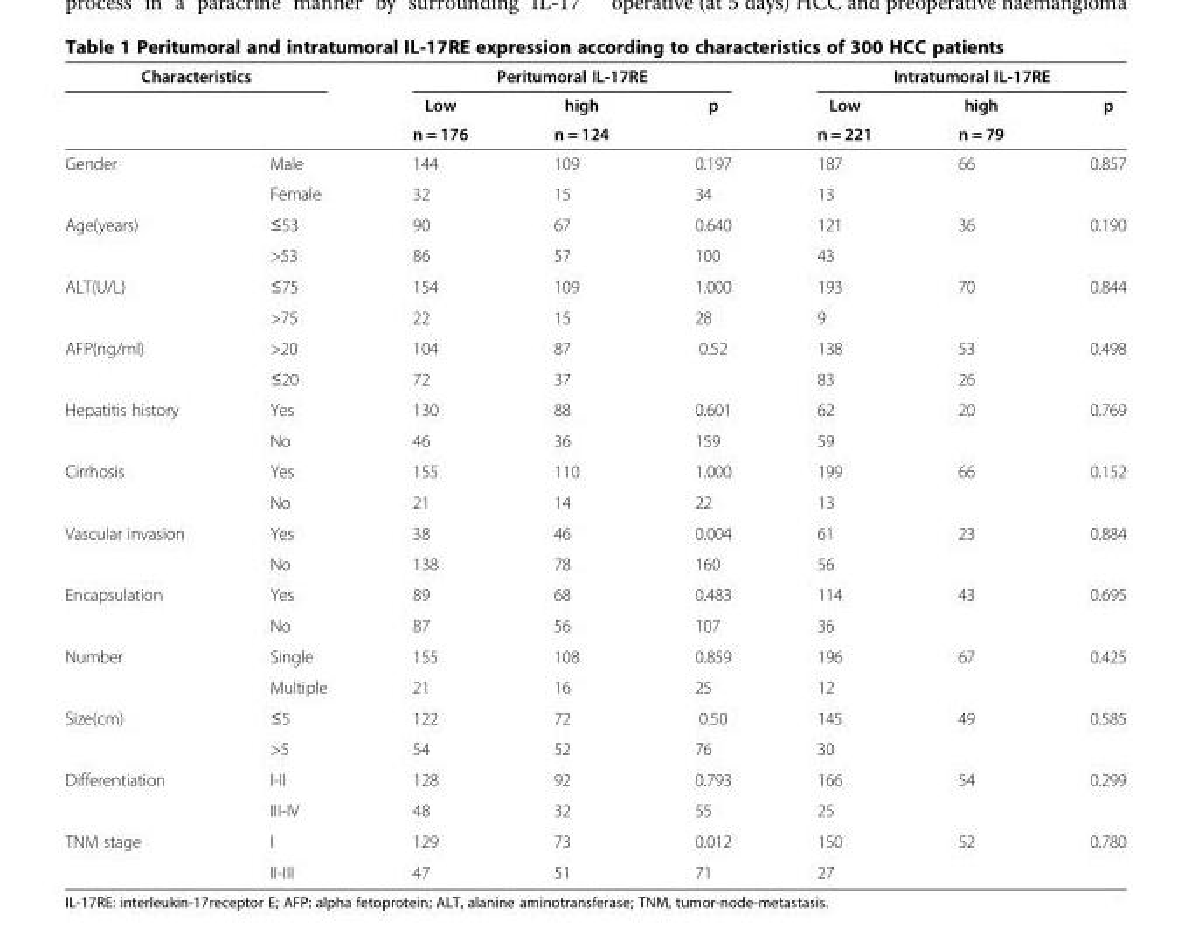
<table><thead><tr><td colspan="2">Characteristics</td><td colspan="3">Peritumoral IL-17RE</td><td colspan="3">Intratumoral IL-17RE</td></tr><tr><td rowspan="2"></td><td rowspan="2"></td><td rowspan="2">Low n = 176</td><td rowspan="2">high n = 124</td><td rowspan="2">p</td><td rowspan="2">Low n = 221</td><td rowspan="2">high n = 79</td><td rowspan="2">p</td></tr><tr></tr></thead><tbody><tr><td rowspan="2">Gender</td><td>Male</td><td>144</td><td>109</td><td>0.197</td><td>187</td><td>66</td><td>0.857</td></tr><tr><td>Female</td><td>32</td><td>15</td><td>34</td><td>13</td><td></td><td></td></tr><tr><td rowspan="2">Age(years)</td><td>≤53</td><td>90</td><td>67</td><td>0.640</td><td>121</td><td>36</td><td>0.190</td></tr><tr><td>&gt;53</td><td>86</td><td>57</td><td>100</td><td>43</td><td></td><td></td></tr><tr><td rowspan="2">ALT(U/L)</td><td>≤75</td><td>154</td><td>109</td><td>1.000</td><td>193</td><td>70</td><td>0.844</td></tr><tr><td>&gt;75</td><td>22</td><td>15</td><td>28</td><td>9</td><td></td><td></td></tr><tr><td rowspan="2">AFP(ng/ml)</td><td>&gt;20</td><td>104</td><td>87</td><td>0.52</td><td>138</td><td>53</td><td>0.498</td></tr><tr><td>≤20</td><td>72</td><td>37</td><td></td><td>83</td><td>26</td><td></td></tr><tr><td rowspan="2">Hepatitis history</td><td>Yes</td><td>130</td><td>88</td><td>0.601</td><td>62</td><td>20</td><td>0.769</td></tr><tr><td>No</td><td>46</td><td>36</td><td>159</td><td>59</td><td></td><td></td></tr><tr><td rowspan="2">Cirrhosis</td><td>Yes</td><td>155</td><td>110</td><td>1.000</td><td>199</td><td>66</td><td>0.152</td></tr><tr><td>No</td><td>21</td><td>14</td><td>22</td><td>13</td><td></td><td></td></tr><tr><td rowspan="2">Vascular invasion</td><td>Yes</td><td>38</td><td>46</td><td>0.004</td><td>61</td><td>23</td><td>0.884</td></tr><tr><td>No</td><td>138</td><td>78</td><td>160</td><td>56</td><td></td><td></td></tr><tr><td rowspan="2">Encapsulation</td><td>Yes</td><td>89</td><td>68</td><td>0.483</td><td>114</td><td>43</td><td>0.695</td></tr><tr><td>No</td><td>87</td><td>56</td><td>107</td><td>36</td><td></td><td></td></tr><tr><td rowspan="2">Number</td><td>Single</td><td>155</td><td>108</td><td>0.859</td><td>196</td><td>67</td><td>0.425</td></tr><tr><td>Multiple</td><td>21</td><td>16</td><td>25</td><td>12</td><td></td><td></td></tr><tr><td rowspan="2">Size(cm)</td><td>≤5</td><td>122</td><td>72</td><td>0.50</td><td>145</td><td>49</td><td>0.585</td></tr><tr><td>&gt;5</td><td>54</td><td>52</td><td>76</td><td>30</td><td></td><td></td></tr><tr><td rowspan="2">Differentiation</td><td>I-II</td><td>128</td><td>92</td><td>0.793</td><td>166</td><td>54</td><td>0.299</td></tr><tr><td>III-IV</td><td>48</td><td>32</td><td>55</td><td>25</td><td></td><td></td></tr><tr><td rowspan="2">TNM stage</td><td>I</td><td>129</td><td>73</td><td>0.012</td><td>150</td><td>52</td><td>0.780</td></tr><tr><td>II-III</td><td>47</td><td>51</td><td>71</td><td>27</td><td></td><td></td></tr></tbody></table>